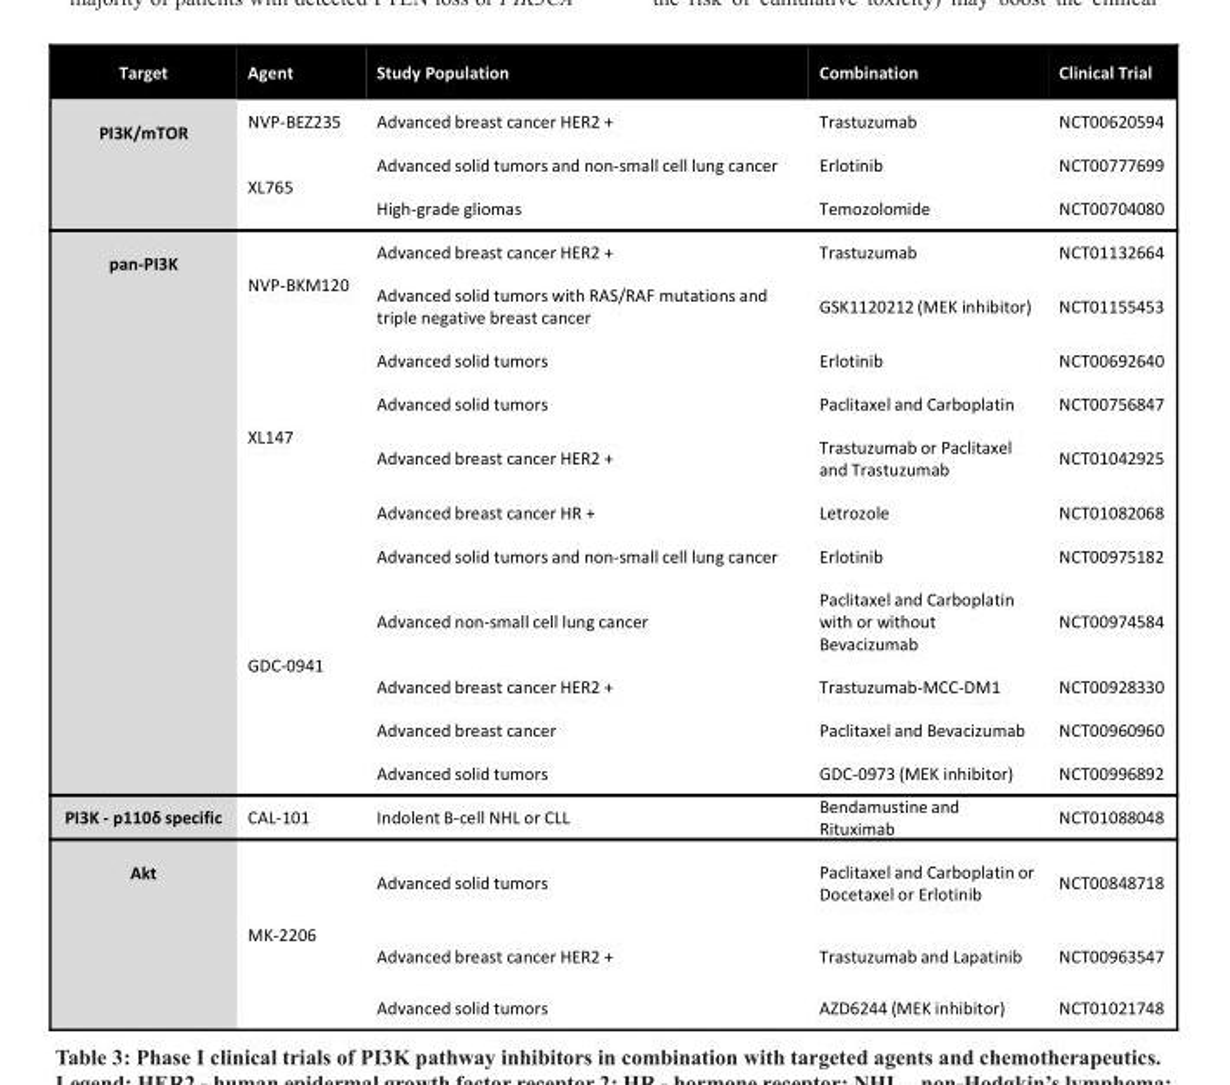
<table><thead><tr><td>Target</td><td>Agent</td><td>Study Population</td><td>Combination</td><td>Clinical Trial</td></tr></thead><tbody><tr><td rowspan="3">PI3K/mTOR</td><td>NVP-BEZ235</td><td>Advanced breast cancer HER2 +</td><td>Trastuzumab</td><td>NCT00620594</td></tr><tr><td rowspan="2">XL765</td><td>Advanced solid tumors and non-small cell lung cancer</td><td>Erlotinib</td><td>NCT00777699</td></tr><tr><td>High-grade gliomas</td><td>Temozolomide</td><td>NCT00704080</td></tr><tr><td rowspan="11">pan-PI3K</td><td rowspan="2">NVP-BKM120</td><td>Advanced breast cancer HER2 +</td><td>Trastuzumab</td><td>NCT01132664</td></tr><tr><td>Advanced solid tumors with RAS/RAF mutations and triple negative breast cancer</td><td>GSK1120212 (MEK inhibitor)</td><td>NCT01155453</td></tr><tr><td rowspan="4">XL147</td><td>Advanced solid tumors</td><td>Erlotinib</td><td>NCT00692640</td></tr><tr><td>Advanced solid tumors</td><td>Paclitaxel and Carboplatin</td><td>NCT00756847</td></tr><tr><td>Advanced breast cancer HER2 +</td><td>Trastuzumab or Paclitaxel and Trastuzumab</td><td>NCT01042925</td></tr><tr><td>Advanced breast cancer HR +</td><td>Letrozole</td><td>NCT01082068</td></tr><tr><td rowspan="5">GDC-0941</td><td>Advanced solid tumors and non-small cell lung cancer</td><td>Erlotinib</td><td>NCT00975182</td></tr><tr><td>Advanced non-small cell lung cancer</td><td>Paclitaxel and Carboplatin with or without Bevacizumab</td><td>NCT00974584</td></tr><tr><td>Advanced breast cancer HER2 +</td><td>Trastuzumab-MCC-DM1</td><td>NCT00928330</td></tr><tr><td>Advanced breast cancer</td><td>Paclitaxel and Bevacizumab</td><td>NCT00960960</td></tr><tr><td>Advanced solid tumors</td><td>GDC-0973 (MEK inhibitor)</td><td>NCT00996892</td></tr><tr><td>PI3K - p110δ specific</td><td>CAL-101</td><td>Indolent B-cell NHL or CLL</td><td>Bendamustine and Rituximab</td><td>NCT01088048</td></tr><tr><td rowspan="3">Akt</td><td rowspan="3">MK-2206</td><td>Advanced solid tumors</td><td>Paclitaxel and Carboplatin or Docetaxel or Erlotinib</td><td>NCT00848718</td></tr><tr><td>Advanced breast cancer HER2 +</td><td>Trastuzumab and Lapatinib</td><td>NCT00963547</td></tr><tr><td>Advanced solid tumors</td><td>AZD6244 (MEK inhibitor)</td><td>NCT01021748</td></tr></tbody></table>